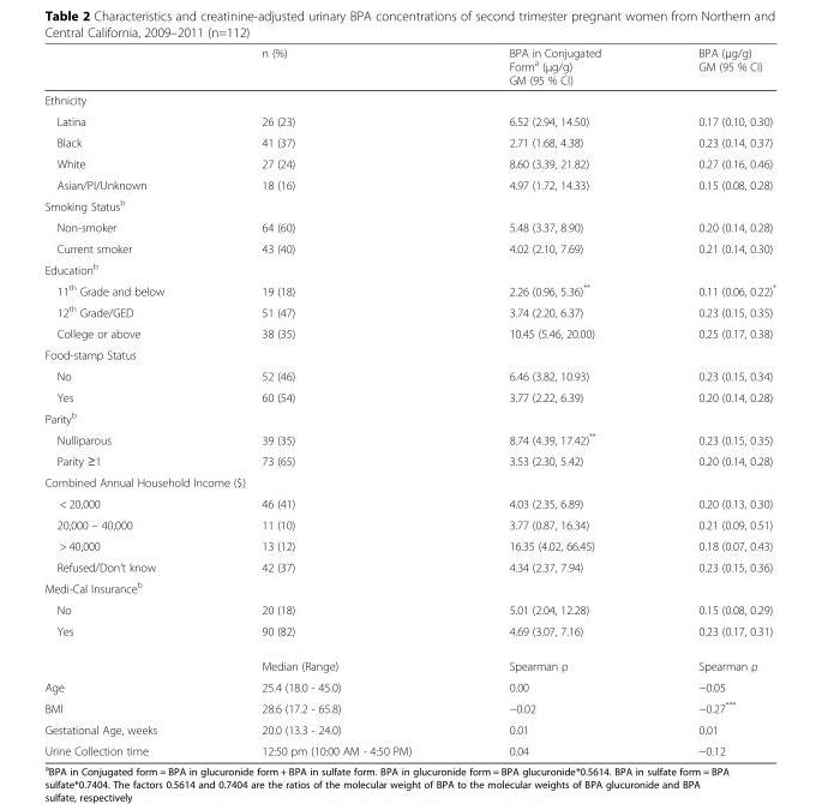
<table><thead><tr><td></td><td>n (%)</td><td>BPA in Conjugated Form<sup>a</sup> (μg/g) GM (95 % CI)</td><td>BPA (μg/g) GM (95 % CI)</td></tr></thead><tbody><tr><td colspan="4">Ethnicity</td></tr><tr><td>Latina</td><td>26 (23)</td><td>6.52 (2.94, 14.50)</td><td>0.17 (0.10, 0.30)</td></tr><tr><td>Black</td><td>41 (37)</td><td>2.71 (1.68, 4.38)</td><td>0.23 (0.14, 0.37)</td></tr><tr><td>White</td><td>27 (24)</td><td>8.60 (3.39, 21.82)</td><td>0.27 (0.16, 0.46)</td></tr><tr><td>Asian/PI/Unknown</td><td>18 (16)</td><td>4.97 (1.72, 14.33)</td><td>0.15 (0.08, 0.28)</td></tr><tr><td colspan="4">Smoking Status<sup>b</sup></td></tr><tr><td>Non-smoker</td><td>64 (60)</td><td>5.48 (3.37, 8.90)</td><td>0.20 (0.14, 0.28)</td></tr><tr><td>Current smoker</td><td>43 (40)</td><td>4.02 (2.10, 7.69)</td><td>0.21 (0.14, 0.30)</td></tr><tr><td colspan="4">Education<sup>b</sup></td></tr><tr><td>11<sup>th</sup> Grade and below</td><td>19 (18)</td><td>2.26 (0.96, 5.36)**</td><td>0.11 (0.06, 0.22)*</td></tr><tr><td>12<sup>th</sup> Grade/GED</td><td>51 (47)</td><td>3.74 (2.20, 6.37)</td><td>0.23 (0.15, 0.35)</td></tr><tr><td>College or above</td><td>38 (35)</td><td>10.45 (5.46, 20.00)</td><td>0.25 (0.17, 0.38)</td></tr><tr><td colspan="4">Food-stamp Status</td></tr><tr><td>No</td><td>52 (46)</td><td>6.46 (3.82, 10.93)</td><td>0.23 (0.15, 0.34)</td></tr><tr><td>Yes</td><td>60 (54)</td><td>3.77 (2.22, 6.39)</td><td>0.20 (0.14, 0.28)</td></tr><tr><td colspan="4">Parity<sup>b</sup></td></tr><tr><td>Nulliparous</td><td>39 (35)</td><td>8.74 (4.39, 17.42)**</td><td>0.23 (0.15, 0.35)</td></tr><tr><td>Parity ≥1</td><td>73 (65)</td><td>3.53 (2.30, 5.42)</td><td>0.20 (0.14, 0.28)</td></tr><tr><td colspan="4">Combined Annual Household Income ($)</td></tr><tr><td>&lt; 20,000</td><td>46 (41)</td><td>4.03 (2.35, 6.89)</td><td>0.20 (0.13, 0.30)</td></tr><tr><td>20,000 – 40,000</td><td>11 (10)</td><td>3.77 (0.87, 16.34)</td><td>0.21 (0.09, 0.51)</td></tr><tr><td>&gt; 40,000</td><td>13 (12)</td><td>16.35 (4.02, 66.45)</td><td>0.18 (0.07, 0.43)</td></tr><tr><td>Refused/Don’t know</td><td>42 (37)</td><td>4.34 (2.37, 7.94)</td><td>0.23 (0.15, 0.36)</td></tr><tr><td colspan="4">Medi-Cal Insurance<sup>b</sup></td></tr><tr><td>No</td><td>20 (18)</td><td>5.01 (2.04, 12.28)</td><td>0.15 (0.08, 0.29)</td></tr><tr><td rowspan="2">Yes</td><td>90 (82)</td><td>4.69 (3.07, 7.16)</td><td>0.23 (0.17, 0.31)</td></tr><tr><td>Median (Range)</td><td>Spearman ρ</td><td>Spearman ρ</td></tr><tr><td>Age</td><td>25.4 (18.0 - 45.0)</td><td>0.00</td><td>−0.05</td></tr><tr><td>BMI</td><td>28.6 (17.2 - 65.8)</td><td>−0.02</td><td>−0.27***</td></tr><tr><td>Gestational Age, weeks</td><td>20.0 (13.3 - 24.0)</td><td>0.01</td><td>0.01</td></tr><tr><td>Urine Collection time</td><td>12:50 pm (10:00 AM - 4:50 PM)</td><td>0.04</td><td>−0.12</td></tr></tbody></table>